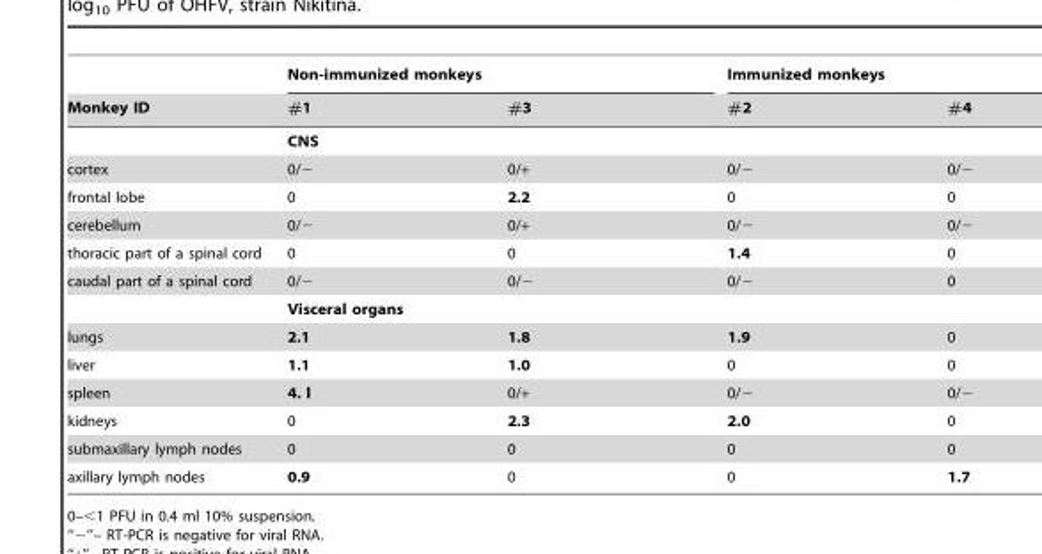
<table><thead><tr><td rowspan="2">Monkey ID</td><td colspan="2">Non-immunized monkeys</td><td colspan="2">Immunized monkeys</td></tr><tr><td>#1</td><td>#3</td><td>#2</td><td>#4</td></tr></thead><tbody><tr><td></td><td colspan="4">CNS</td></tr><tr><td>cortex</td><td>0/−</td><td>0/+</td><td>0/−</td><td>0/−</td></tr><tr><td>frontal lobe</td><td>0</td><td>2.2</td><td>0</td><td>0</td></tr><tr><td>cerebellum</td><td>0/−</td><td>0/+</td><td>0/−</td><td>0/−</td></tr><tr><td>thoracic part of a spinal cord</td><td>0</td><td>0</td><td>1.4</td><td>0</td></tr><tr><td rowspan="2">caudal part of a spinal cord</td><td>0/−</td><td>0/−</td><td>0/−</td><td>0</td></tr><tr><td colspan="4">Visceral organs</td></tr><tr><td>lungs</td><td>2.1</td><td>1.8</td><td>1.9</td><td>0</td></tr><tr><td>liver</td><td>1.1</td><td>1.0</td><td>0</td><td>0</td></tr><tr><td>spleen</td><td>4. l</td><td>0/+</td><td>0/−</td><td>0/−</td></tr><tr><td>kidneys</td><td>0</td><td>2.3</td><td>2.0</td><td>0</td></tr><tr><td>submaxillary lymph nodes</td><td>0</td><td>0</td><td>0</td><td>0</td></tr><tr><td>axillary lymph nodes</td><td>0.9</td><td>0</td><td>0</td><td>1.7</td></tr></tbody></table>